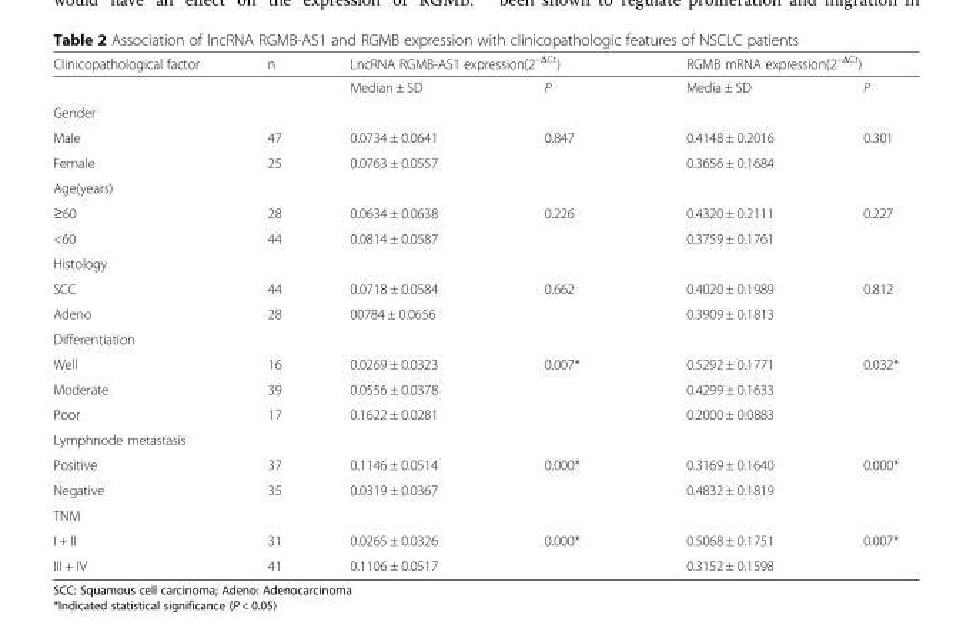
<table><thead><tr><td rowspan="2">Clinicopathological factor</td><td rowspan="2">n</td><td colspan="2">LncRNA RGMB-AS1 expression(2<sup>–ΔCt</sup>)</td><td colspan="2">RGMB mRNA expression(2<sup>–ΔCt</sup>)</td></tr><tr><td>Median ± SD</td><td>P</td><td>Media ± SD</td><td>P</td></tr></thead><tbody><tr><td colspan="6">Gender</td></tr><tr><td>Male</td><td>47</td><td>0.0734 ± 0.0641</td><td>0.847</td><td>0.4148 ± 0.2016</td><td>0.301</td></tr><tr><td>Female</td><td>25</td><td>0.0763 ± 0.0557</td><td></td><td>0.3656 ± 0.1684</td><td></td></tr><tr><td colspan="6">Age(years)</td></tr><tr><td>≥60</td><td>28</td><td>0.0634 ± 0.0638</td><td>0.226</td><td>0.4320 ± 0.2111</td><td>0.227</td></tr><tr><td>&lt;60</td><td>44</td><td>0.0814 ± 0.0587</td><td></td><td>0.3759 ± 0.1761</td><td></td></tr><tr><td colspan="6">Histology</td></tr><tr><td>SCC</td><td>44</td><td>0.0718 ± 0.0584</td><td>0.662</td><td>0.4020 ± 0.1989</td><td>0.812</td></tr><tr><td>Adeno</td><td>28</td><td>00784 ± 0.0656</td><td></td><td>0.3909 ± 0.1813</td><td></td></tr><tr><td colspan="6">Differentiation</td></tr><tr><td>Well</td><td>16</td><td>0.0269 ± 0.0323</td><td>0.007*</td><td>0.5292 ± 0.1771</td><td>0.032*</td></tr><tr><td>Moderate</td><td>39</td><td>0.0556 ± 0.0378</td><td></td><td>0.4299 ± 0.1633</td><td></td></tr><tr><td>Poor</td><td>17</td><td>0.1622 ± 0.0281</td><td></td><td>0.2000 ± 0.0883</td><td></td></tr><tr><td colspan="6">Lymphnode metastasis</td></tr><tr><td>Positive</td><td>37</td><td>0.1146 ± 0.0514</td><td>0.000*</td><td>0.3169 ± 0.1640</td><td>0.000*</td></tr><tr><td>Negative</td><td>35</td><td>0.0319 ± 0.0367</td><td></td><td>0.4832 ± 0.1819</td><td></td></tr><tr><td colspan="6">TNM</td></tr><tr><td>I + II</td><td>31</td><td>0.0265 ± 0.0326</td><td>0.000*</td><td>0.5068 ± 0.1751</td><td>0.007*</td></tr><tr><td>III + IV</td><td>41</td><td>0.1106 ± 0.0517</td><td></td><td>0.3152 ± 0.1598</td><td></td></tr></tbody></table>